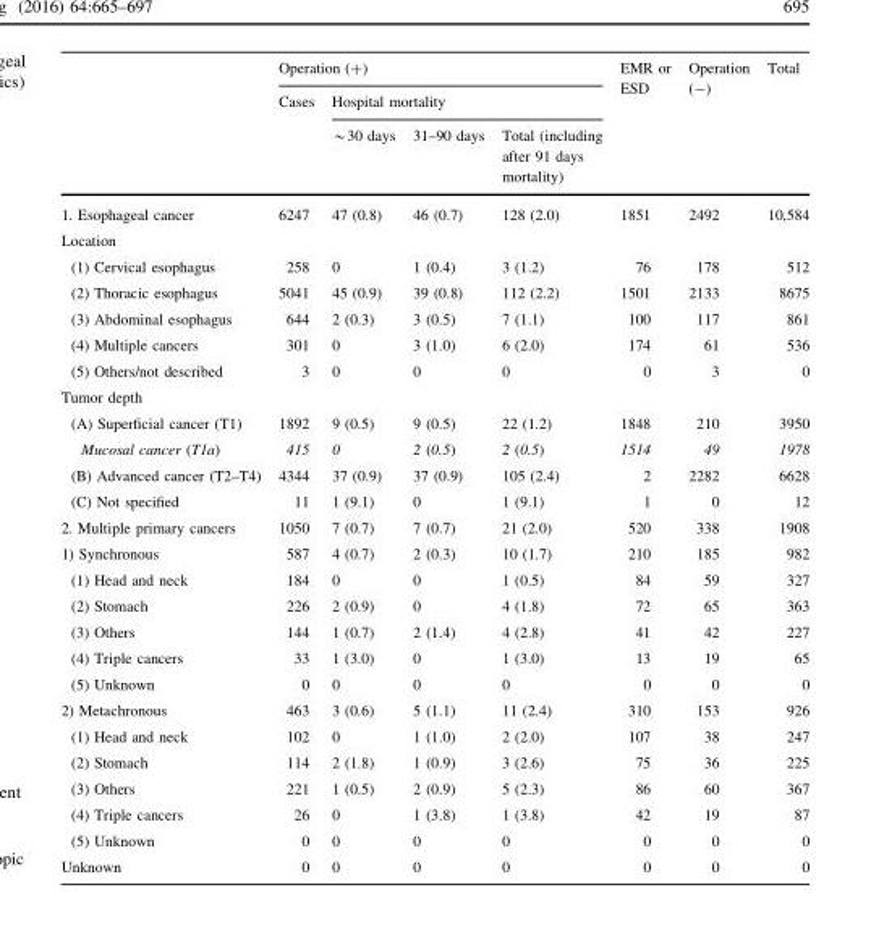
<table><thead><tr><td rowspan="3"></td><td colspan="4">Operation (+)</td><td rowspan="3">EMR or ESD</td><td rowspan="3">Operation (-)</td><td rowspan="3">Total</td></tr><tr><td rowspan="2">Cases</td><td colspan="3">Hospital mortality</td></tr><tr><td>*30 days</td><td>31–90 days</td><td>Total (including after 91 days mortality)</td></tr></thead><tbody><tr><td>1. Esophageal cancer</td><td>6247</td><td>47 (0.8)</td><td>46 (0.7)</td><td>128 (2.0)</td><td>1851</td><td>2492</td><td>10,584</td></tr><tr><td colspan="8">Location</td></tr><tr><td>(1) Cervical esophagus</td><td>258</td><td>0</td><td>1 (0.4)</td><td>3 (1.2)</td><td>76</td><td>178</td><td>512</td></tr><tr><td>(2) Thoracic esophagus</td><td>5041</td><td>45 (0.9)</td><td>39 (0.8)</td><td>112 (2.2)</td><td>1501</td><td>2133</td><td>8675</td></tr><tr><td>(3) Abdominal esophagus</td><td>644</td><td>2 (0.3)</td><td>3 (0.5)</td><td>7 (1.1)</td><td>100</td><td>117</td><td>861</td></tr><tr><td>(4) Multiple cancers</td><td>301</td><td>0</td><td>3 (1.0)</td><td>6 (2.0)</td><td>174</td><td>61</td><td>536</td></tr><tr><td>(5) Others/not described</td><td>3</td><td>0</td><td>0</td><td>0</td><td>0</td><td>3</td><td>0</td></tr><tr><td colspan="8">Tumor depth</td></tr><tr><td>(A) Superficial cancer (T1)</td><td>1892</td><td>9 (0.5)</td><td>9 (0.5)</td><td>22 (1.2)</td><td>1848</td><td>210</td><td>3950</td></tr><tr><td>Mucosal cancer (T1a)</td><td>415</td><td>0</td><td>2 (0.5)</td><td>2 (0.5)</td><td>1514</td><td>49</td><td>1978</td></tr><tr><td>(B) Advanced cancer (T2–T4)</td><td>4344</td><td>37 (0.9)</td><td>37 (0.9)</td><td>105 (2.4)</td><td>2</td><td>2282</td><td>6628</td></tr><tr><td>(C) Not specified</td><td>11</td><td>1 (9.1)</td><td>0</td><td>1 (9.1)</td><td>1</td><td>0</td><td>12</td></tr><tr><td>2. Multiple primary cancers</td><td>1050</td><td>7 (0.7)</td><td>7 (0.7)</td><td>21 (2.0)</td><td>520</td><td>338</td><td>1908</td></tr><tr><td>1) Synchronous</td><td>587</td><td>4 (0.7)</td><td>2 (0.3)</td><td>10 (1.7)</td><td>210</td><td>185</td><td>982</td></tr><tr><td>(1) Head and neck</td><td>184</td><td>0</td><td>0</td><td>1 (0.5)</td><td>84</td><td>59</td><td>327</td></tr><tr><td>(2) Stomach</td><td>226</td><td>2 (0.9)</td><td>0</td><td>4 (1.8)</td><td>72</td><td>65</td><td>363</td></tr><tr><td>(3) Others</td><td>144</td><td>1 (0.7)</td><td>2 (1.4)</td><td>4 (2.8)</td><td>41</td><td>42</td><td>227</td></tr><tr><td>(4) Triple cancers</td><td>33</td><td>1 (3.0)</td><td>0</td><td>1 (3.0)</td><td>13</td><td>19</td><td>65</td></tr><tr><td>(5) Unknown</td><td>0</td><td>0</td><td>0</td><td>0</td><td>0</td><td>0</td><td>0</td></tr><tr><td>2) Metachronous</td><td>463</td><td>3 (0.6)</td><td>5 (1.1)</td><td>11 (2.4)</td><td>310</td><td>153</td><td>926</td></tr><tr><td>(1) Head and neck</td><td>102</td><td>0</td><td>1 (1.0)</td><td>2 (2.0)</td><td>107</td><td>38</td><td>247</td></tr><tr><td>(2) Stomach</td><td>114</td><td>2 (1.8)</td><td>1 (0.9)</td><td>3 (2.6)</td><td>75</td><td>36</td><td>225</td></tr><tr><td>(3) Others</td><td>221</td><td>1 (0.5)</td><td>2 (0.9)</td><td>5 (2.3)</td><td>86</td><td>60</td><td>367</td></tr><tr><td>(4) Triple cancers</td><td>26</td><td>0</td><td>1 (3.8)</td><td>1 (3.8)</td><td>42</td><td>19</td><td>87</td></tr><tr><td>(5) Unknown</td><td>0</td><td>0</td><td>0</td><td>0</td><td>0</td><td>0</td><td>0</td></tr><tr><td>Unknown</td><td>0</td><td>0</td><td>0</td><td>0</td><td>0</td><td>0</td><td>0</td></tr></tbody></table>